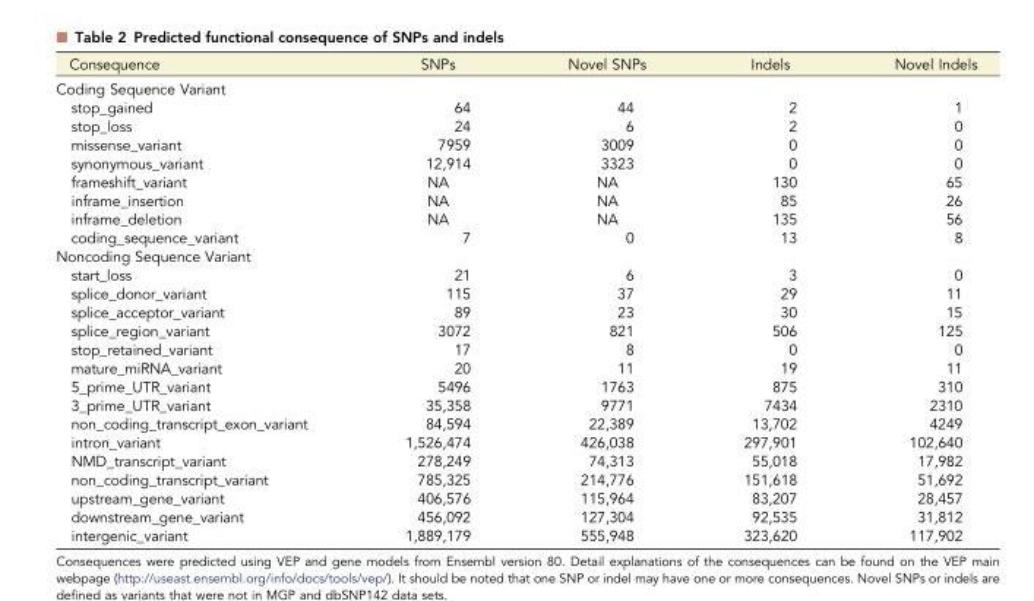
<table><thead><tr><td>Consequence</td><td>SNPs</td><td>Novel SNPs</td><td>Indels</td><td>Novel Indels</td></tr></thead><tbody><tr><td colspan="5">Coding Sequence Variant</td></tr><tr><td>stop_gained</td><td>64</td><td>44</td><td>2</td><td>1</td></tr><tr><td>stop_loss</td><td>24</td><td>6</td><td>2</td><td>0</td></tr><tr><td>missense_variant</td><td>7959</td><td>3009</td><td>0</td><td>0</td></tr><tr><td>synonymous_variant</td><td>12,914</td><td>3323</td><td>0</td><td>0</td></tr><tr><td>frameshift_variant</td><td>NA</td><td>NA</td><td>130</td><td>65</td></tr><tr><td>inframe_insertion</td><td>NA</td><td>NA</td><td>85</td><td>26</td></tr><tr><td>inframe_deletion</td><td>NA</td><td>NA</td><td>135</td><td>56</td></tr><tr><td>coding_sequence_variant</td><td>7</td><td>0</td><td>13</td><td>8</td></tr><tr><td colspan="5">Noncoding Sequence Variant</td></tr><tr><td>start_loss</td><td>21</td><td>6</td><td>3</td><td>0</td></tr><tr><td>splice_donor_variant</td><td>115</td><td>37</td><td>29</td><td>11</td></tr><tr><td>splice_acceptor_variant</td><td>89</td><td>23</td><td>30</td><td>15</td></tr><tr><td>splice_region_variant</td><td>3072</td><td>821</td><td>506</td><td>125</td></tr><tr><td>stop_retained_variant</td><td>17</td><td>8</td><td>0</td><td>0</td></tr><tr><td>mature_miRNA_variant</td><td>20</td><td>11</td><td>19</td><td>11</td></tr><tr><td>5_prime_UTR_variant</td><td>5496</td><td>1763</td><td>875</td><td>310</td></tr><tr><td>3_prime_UTR_variant</td><td>35,358</td><td>9771</td><td>7434</td><td>2310</td></tr><tr><td>non_coding_transcript_exon_variant</td><td>84,594</td><td>22,389</td><td>13,702</td><td>4249</td></tr><tr><td>intron_variant</td><td>1,526,474</td><td>426,038</td><td>297,901</td><td>102,640</td></tr><tr><td>NMD_transcript_variant</td><td>278,249</td><td>74,313</td><td>55,018</td><td>17,982</td></tr><tr><td>non_coding_transcript_variant</td><td>785,325</td><td>214,776</td><td>151,618</td><td>51,692</td></tr><tr><td>upstream_gene_variant</td><td>406,576</td><td>115,964</td><td>83,207</td><td>28,457</td></tr><tr><td>downstream_gene_variant</td><td>456,092</td><td>127,304</td><td>92,535</td><td>31,812</td></tr><tr><td>intergenic_variant</td><td>1,889,179</td><td>555,948</td><td>323,620</td><td>117,902</td></tr></tbody></table>